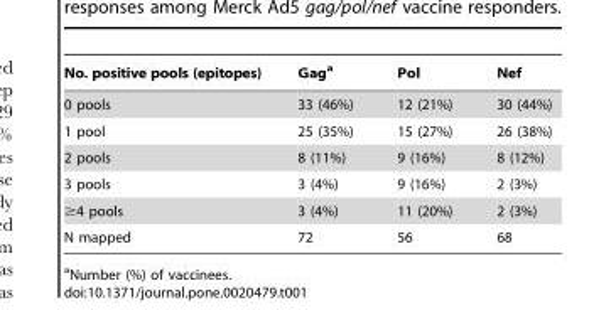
<table><thead><tr><td>No. positive pools (epitopes)</td><td>Gag<sup>a</sup></td><td>Pol</td><td>Nef</td></tr></thead><tbody><tr><td>0 pools</td><td>33 (46%)</td><td>12 (21%)</td><td>30 (44%)</td></tr><tr><td>1 pool</td><td>25 (35%)</td><td>15 (27%)</td><td>26 (38%)</td></tr><tr><td>2 pools</td><td>8 (11%)</td><td>9 (16%)</td><td>8 (12%)</td></tr><tr><td>3 pools</td><td>3 (4%)</td><td>9 (16%)</td><td>2 (3%)</td></tr><tr><td>≥4 pools</td><td>3 (4%)</td><td>11 (20%)</td><td>2 (3%)</td></tr><tr><td>N mapped</td><td>72</td><td>56</td><td>68</td></tr></tbody></table>